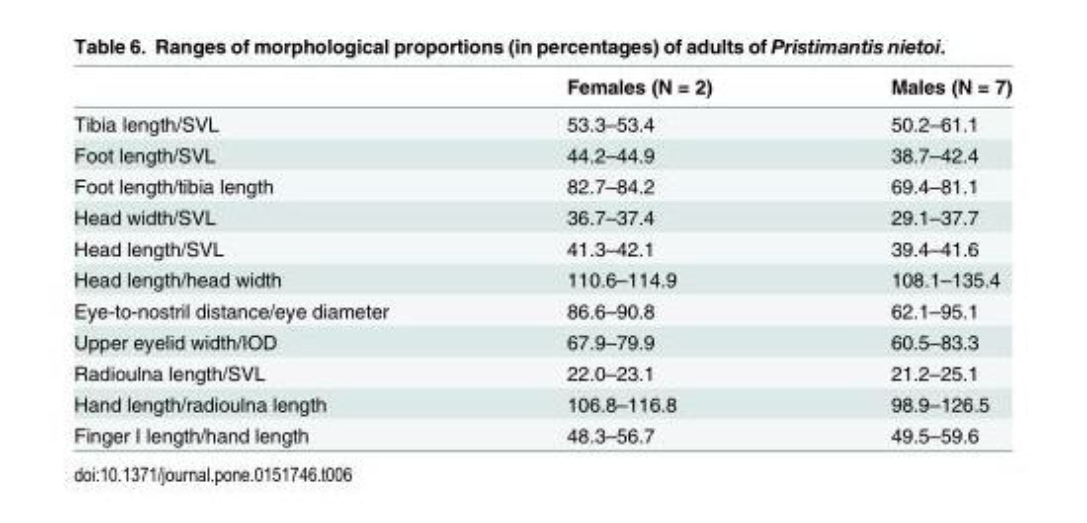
<table><thead><tr><td></td><td>Females (N = 2)</td><td>Males (N = 7)</td></tr></thead><tbody><tr><td>Tibia length/SVL</td><td>53.3–53.4</td><td>50.2–61.1</td></tr><tr><td>Foot length/SVL</td><td>44.2–44.9</td><td>38.7–42.4</td></tr><tr><td>Foot length/tibia length</td><td>82.7–84.2</td><td>69.4–81.1</td></tr><tr><td>Head width/SVL</td><td>36.7–37.4</td><td>29.1–37.7</td></tr><tr><td>Head length/SVL</td><td>41.3–42.1</td><td>39.4–41.6</td></tr><tr><td>Head length/head width</td><td>110.6–114.9</td><td>108.1–135.4</td></tr><tr><td>Eye-to-nostril distance/eye diameter</td><td>86.6–90.8</td><td>62.1–95.1</td></tr><tr><td>Upper eyelid width/IOD</td><td>67.9–79.9</td><td>60.5–83.3</td></tr><tr><td>Radioulna length/SVL</td><td>22.0–23.1</td><td>21.2–25.1</td></tr><tr><td>Hand length/radioulna length</td><td>106.8–116.8</td><td>98.9–126.5</td></tr><tr><td>Finger I length/hand length</td><td>48.3–56.7</td><td>49.5–59.6</td></tr></tbody></table>